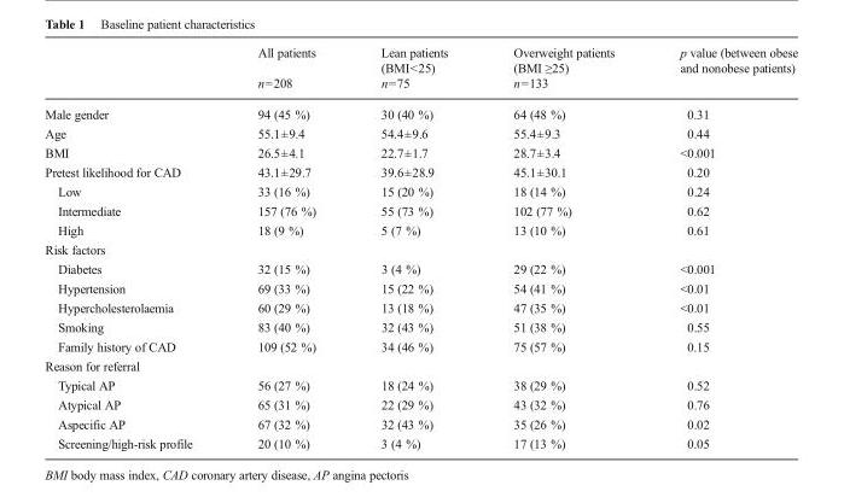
<table><thead><tr><td rowspan="2"></td><td rowspan="2">All patients n=208</td><td rowspan="2">Lean patients (BMI&lt;25) n=75</td><td rowspan="2">Overweight patients (BMI ≥25) n=133</td><td rowspan="2">p value (between obese and nonobese patients)</td></tr><tr></tr></thead><tbody><tr><td>Male gender</td><td>94 (45 %)</td><td>30 (40 %)</td><td>64 (48 %)</td><td>0.31</td></tr><tr><td>Age</td><td>55.1±9.4</td><td>54.4±9.6</td><td>55.4±9.3</td><td>0.44</td></tr><tr><td>BMI</td><td>26.5±4.1</td><td>22.7±1.7</td><td>28.7±3.4</td><td>&lt;0.001</td></tr><tr><td>Pretest likelihood for CAD</td><td>43.1±29.7</td><td>39.6±28.9</td><td>45.1±30.1</td><td>0.20</td></tr><tr><td>Low</td><td>33 (16 %)</td><td>15 (20 %)</td><td>18 (14 %)</td><td>0.24</td></tr><tr><td>Intermediate</td><td>157 (76 %)</td><td>55 (73 %)</td><td>102 (77 %)</td><td>0.62</td></tr><tr><td>High</td><td>18 (9 %)</td><td>5 (7 %)</td><td>13 (10 %)</td><td>0.61</td></tr><tr><td colspan="5">Risk factors</td></tr><tr><td>Diabetes</td><td>32 (15 %)</td><td>3 (4 %)</td><td>29 (22 %)</td><td>&lt;0.001</td></tr><tr><td>Hypertension</td><td>69 (33 %)</td><td>15 (22 %)</td><td>54 (41 %)</td><td>&lt;0.01</td></tr><tr><td>Hypercholesterolaemia</td><td>60 (29 %)</td><td>13 (18 %)</td><td>47 (35 %)</td><td>&lt;0.01</td></tr><tr><td>Smoking</td><td>83 (40 %)</td><td>32 (43 %)</td><td>51 (38 %)</td><td>0.55</td></tr><tr><td>Family history of CAD</td><td>109 (52 %)</td><td>34 (46 %)</td><td>75 (57 %)</td><td>0.15</td></tr><tr><td colspan="5">Reason for referral</td></tr><tr><td>Typical AP</td><td>56 (27 %)</td><td>18 (24 %)</td><td>38 (29 %)</td><td>0.52</td></tr><tr><td>Atypical AP</td><td>65 (31 %)</td><td>22 (29 %)</td><td>43 (32 %)</td><td>0.76</td></tr><tr><td>Aspecific AP</td><td>67 (32 %)</td><td>32 (43 %)</td><td>35 (26 %)</td><td>0.02</td></tr><tr><td>Screening/high-risk profile</td><td>20 (10 %)</td><td>3 (4 %)</td><td>17 (13 %)</td><td>0.05</td></tr></tbody></table>